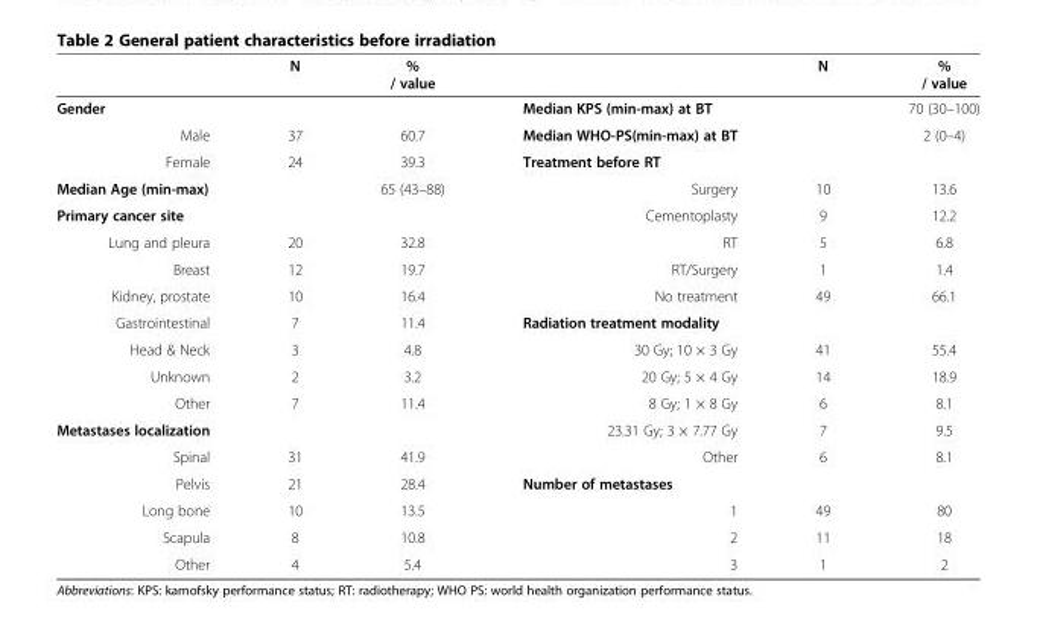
<table><thead><tr><td></td><td>N</td><td>% / value</td><td></td><td>N</td><td>% / value</td></tr></thead><tbody><tr><td>Gender</td><td></td><td></td><td>Median KPS (min-max) at BT</td><td></td><td>70 (30–100)</td></tr><tr><td>Male</td><td>37</td><td>60.7</td><td>Median WHO-PS(min-max) at BT</td><td></td><td>2 (0–4)</td></tr><tr><td>Female</td><td>24</td><td>39.3</td><td>Treatment before RT</td><td></td><td></td></tr><tr><td>Median Age (min-max)</td><td></td><td>65 (43–88)</td><td>Surgery</td><td>10</td><td>13.6</td></tr><tr><td>Primary cancer site</td><td></td><td></td><td>Cementoplasty</td><td>9</td><td>12.2</td></tr><tr><td>Lung and pleura</td><td>20</td><td>32.8</td><td>RT</td><td>5</td><td>6.8</td></tr><tr><td>Breast</td><td>12</td><td>19.7</td><td>RT/Surgery</td><td>1</td><td>1.4</td></tr><tr><td>Kidney, prostate</td><td>10</td><td>16.4</td><td>No treatment</td><td>49</td><td>66.1</td></tr><tr><td>Gastrointestinal</td><td>7</td><td>11.4</td><td>Radiation treatment modality</td><td></td><td></td></tr><tr><td>Head &amp; Neck</td><td>3</td><td>4.8</td><td>30 Gy; 10 × 3 Gy</td><td>41</td><td>55.4</td></tr><tr><td>Unknown</td><td>2</td><td>3.2</td><td>20 Gy; 5 × 4 Gy</td><td>14</td><td>18.9</td></tr><tr><td>Other</td><td>7</td><td>11.4</td><td>8 Gy; 1 × 8 Gy</td><td>6</td><td>8.1</td></tr><tr><td>Metastases localization</td><td></td><td></td><td>23.31 Gy; 3 × 7.77 Gy</td><td>7</td><td>9.5</td></tr><tr><td>Spinal</td><td>31</td><td>41.9</td><td>Other</td><td>6</td><td>8.1</td></tr><tr><td>Pelvis</td><td>21</td><td>28.4</td><td>Number of metastases</td><td></td><td></td></tr><tr><td>Long bone</td><td>10</td><td>13.5</td><td>1</td><td>49</td><td>80</td></tr><tr><td>Scapula</td><td>8</td><td>10.8</td><td>2</td><td>11</td><td>18</td></tr><tr><td>Other</td><td>4</td><td>5.4</td><td>3</td><td>1</td><td>2</td></tr></tbody></table>